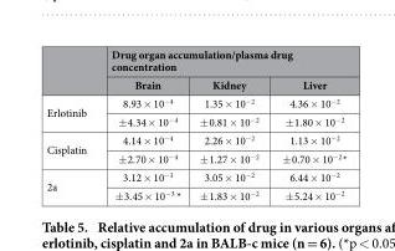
<table><thead><tr><td rowspan="2"></td><td colspan="3">Drug organ accumulation/plasma drug concentration</td></tr><tr><td>Brain</td><td>Kidney</td><td>Liver</td></tr></thead><tbody><tr><td rowspan="2">Erlotinib</td><td>8.93 × 10<sup>−4</sup></td><td>1.35 × 10<sup>−2</sup></td><td>4.36 × 10<sup>−2</sup></td></tr><tr><td>± 4.34 × 10<sup>−4</sup></td><td>± 0.81 × 10<sup>−2</sup></td><td>± 1.80 × 10<sup>−2</sup></td></tr><tr><td rowspan="2">Cisplatin</td><td>4.14 × 10<sup>−4</sup></td><td>2.26 × 10<sup>−2</sup></td><td>1.13 × 10<sup>−2</sup></td></tr><tr><td>± 2.70 × 10<sup>−4</sup></td><td>± 1.27 × 10<sup>−2</sup></td><td>± 0.70 × 10<sup>−2</sup> *</td></tr><tr><td rowspan="2">2a</td><td>3.12 × 10<sup>−3</sup></td><td>3.05 × 10<sup>−2</sup></td><td>6.44 × 10<sup>−2</sup></td></tr><tr><td>± 3.45 × 10<sup>−3</sup> *</td><td>± 1.83 × 10<sup>−2</sup></td><td>± 5.24 × 10<sup>−2</sup></td></tr></tbody></table>